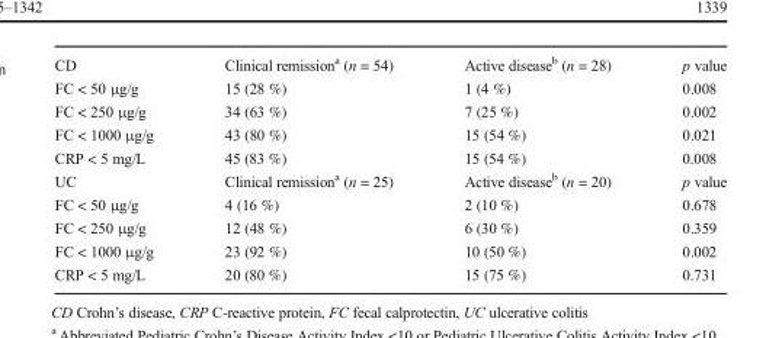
<table><tbody><tr><td>CD</td><td>Clinical remission<sup>a</sup> (n = 54)</td><td>Active disease<sup>b</sup> (n = 28)</td><td>p value</td></tr><tr><td>FC &lt; 50 μg/g</td><td>15 (28 %)</td><td>1 (4 %)</td><td>0.008</td></tr><tr><td>FC &lt; 250 μg/g</td><td>34 (63 %)</td><td>7 (25 %)</td><td>0.002</td></tr><tr><td>FC &lt; 1000 μg/g</td><td>43 (80 %)</td><td>15 (54 %)</td><td>0.021</td></tr><tr><td>CRP &lt; 5 mg/L</td><td>45 (83 %)</td><td>15 (54 %)</td><td>0.008</td></tr><tr><td>UC</td><td>Clinical remission<sup>a</sup> (n = 25)</td><td>Active disease<sup>b</sup> (n = 20)</td><td>p value</td></tr><tr><td>FC &lt; 50 μg/g</td><td>4 (16 %)</td><td>2 (10 %)</td><td>0.678</td></tr><tr><td>FC &lt; 250 μg/g</td><td>12 (48 %)</td><td>6 (30 %)</td><td>0.359</td></tr><tr><td>FC &lt; 1000 μg/g</td><td>23 (92 %)</td><td>10 (50 %)</td><td>0.002</td></tr><tr><td>CRP &lt; 5 mg/L</td><td>20 (80 %)</td><td>15 (75 %)</td><td>0.731</td></tr></tbody></table>